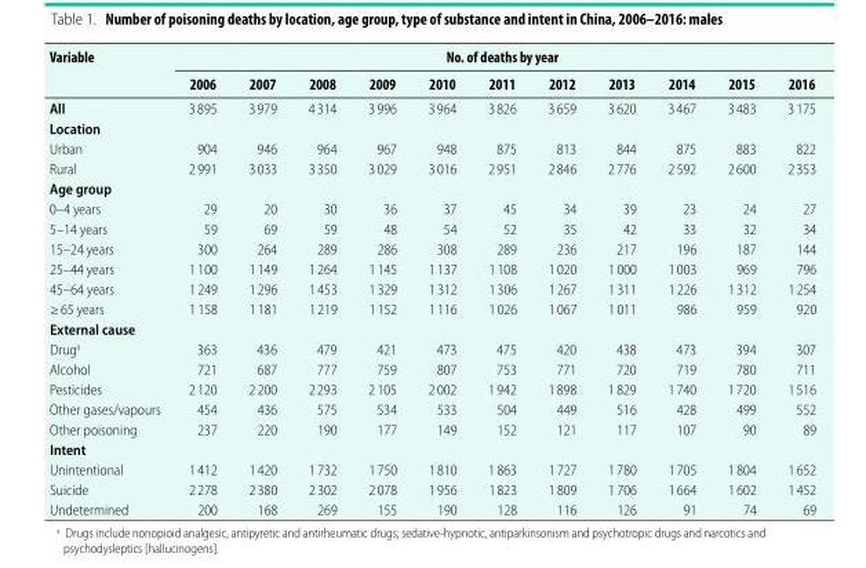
<table><thead><tr><td rowspan="2">Variable</td><td colspan="11">No. of deaths by year</td></tr><tr><td>2006</td><td>2007</td><td>2008</td><td>2009</td><td>2010</td><td>2011</td><td>2012</td><td>2013</td><td>2014</td><td>2015</td><td>2016</td></tr></thead><tbody><tr><td>All</td><td>3 895</td><td>3 979</td><td>4 314</td><td>3 996</td><td>3 964</td><td>3 826</td><td>3 659</td><td>3 620</td><td>3 467</td><td>3 483</td><td>3 175</td></tr><tr><td colspan="12">Location</td></tr><tr><td>Urban</td><td>904</td><td>946</td><td>964</td><td>967</td><td>948</td><td>875</td><td>813</td><td>844</td><td>875</td><td>883</td><td>822</td></tr><tr><td>Rural</td><td>2 991</td><td>3 033</td><td>3 350</td><td>3 029</td><td>3 016</td><td>2 951</td><td>2 846</td><td>2 776</td><td>2 592</td><td>2 600</td><td>2 353</td></tr><tr><td colspan="12">Age group</td></tr><tr><td>0–4 years</td><td>29</td><td>20</td><td>30</td><td>36</td><td>37</td><td>45</td><td>34</td><td>39</td><td>23</td><td>24</td><td>27</td></tr><tr><td>5–14 years</td><td>59</td><td>69</td><td>59</td><td>48</td><td>54</td><td>52</td><td>35</td><td>42</td><td>33</td><td>32</td><td>34</td></tr><tr><td>15–24 years</td><td>300</td><td>264</td><td>289</td><td>286</td><td>308</td><td>289</td><td>236</td><td>217</td><td>196</td><td>187</td><td>144</td></tr><tr><td>25–44 years</td><td>1 100</td><td>1 149</td><td>1 264</td><td>1 145</td><td>1 137</td><td>1 108</td><td>1 020</td><td>1 000</td><td>1 003</td><td>969</td><td>796</td></tr><tr><td>45–64 years</td><td>1 249</td><td>1 296</td><td>1 453</td><td>1 329</td><td>1 312</td><td>1 306</td><td>1 267</td><td>1 311</td><td>1 226</td><td>1 312</td><td>1 254</td></tr><tr><td>≥ 65 years</td><td>1 158</td><td>1 181</td><td>1 219</td><td>1 152</td><td>1 116</td><td>1 026</td><td>1 067</td><td>1 011</td><td>986</td><td>959</td><td>920</td></tr><tr><td colspan="12">External cause</td></tr><tr><td>Drug<sup>a</sup></td><td>363</td><td>436</td><td>479</td><td>421</td><td>473</td><td>475</td><td>420</td><td>438</td><td>473</td><td>394</td><td>307</td></tr><tr><td>Alcohol</td><td>721</td><td>687</td><td>777</td><td>759</td><td>807</td><td>753</td><td>771</td><td>720</td><td>719</td><td>780</td><td>711</td></tr><tr><td>Pesticides</td><td>2 120</td><td>2 200</td><td>2 293</td><td>2 105</td><td>2 002</td><td>1 942</td><td>1 898</td><td>1 829</td><td>1 740</td><td>1 720</td><td>1 516</td></tr><tr><td>Other gases/vapours</td><td>454</td><td>436</td><td>575</td><td>534</td><td>533</td><td>504</td><td>449</td><td>516</td><td>428</td><td>499</td><td>552</td></tr><tr><td>Other poisoning</td><td>237</td><td>220</td><td>190</td><td>177</td><td>149</td><td>152</td><td>121</td><td>117</td><td>107</td><td>90</td><td>89</td></tr><tr><td colspan="12">Intent</td></tr><tr><td>Unintentional</td><td>1 412</td><td>1 420</td><td>1 732</td><td>1 750</td><td>1 810</td><td>1 863</td><td>1 727</td><td>1 780</td><td>1 705</td><td>1 804</td><td>1 652</td></tr><tr><td>Suicide</td><td>2 278</td><td>2 380</td><td>2 302</td><td>2 078</td><td>1 956</td><td>1 823</td><td>1 809</td><td>1 706</td><td>1 664</td><td>1 602</td><td>1 452</td></tr><tr><td>Undetermined</td><td>200</td><td>168</td><td>269</td><td>155</td><td>190</td><td>128</td><td>116</td><td>126</td><td>91</td><td>74</td><td>69</td></tr></tbody></table>